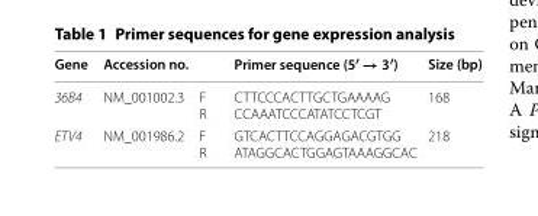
<table><thead><tr><td>Gene</td><td>Accession no.</td><td></td><td>Primer sequence (5′ → 3′)</td><td>Size (bp)</td></tr></thead><tbody><tr><td>36B4</td><td>NM_001002.3</td><td>F R</td><td>CTTCCCACTTGCTGAAAAG CCAAATCCCATATCCTCGT</td><td>168</td></tr><tr><td>ETV4</td><td>NM_001986.2</td><td>F R</td><td>GTCACTTCCAGGAGACGTGG ATAGGCACTGGAGTAAAGGCAC</td><td>218</td></tr></tbody></table>